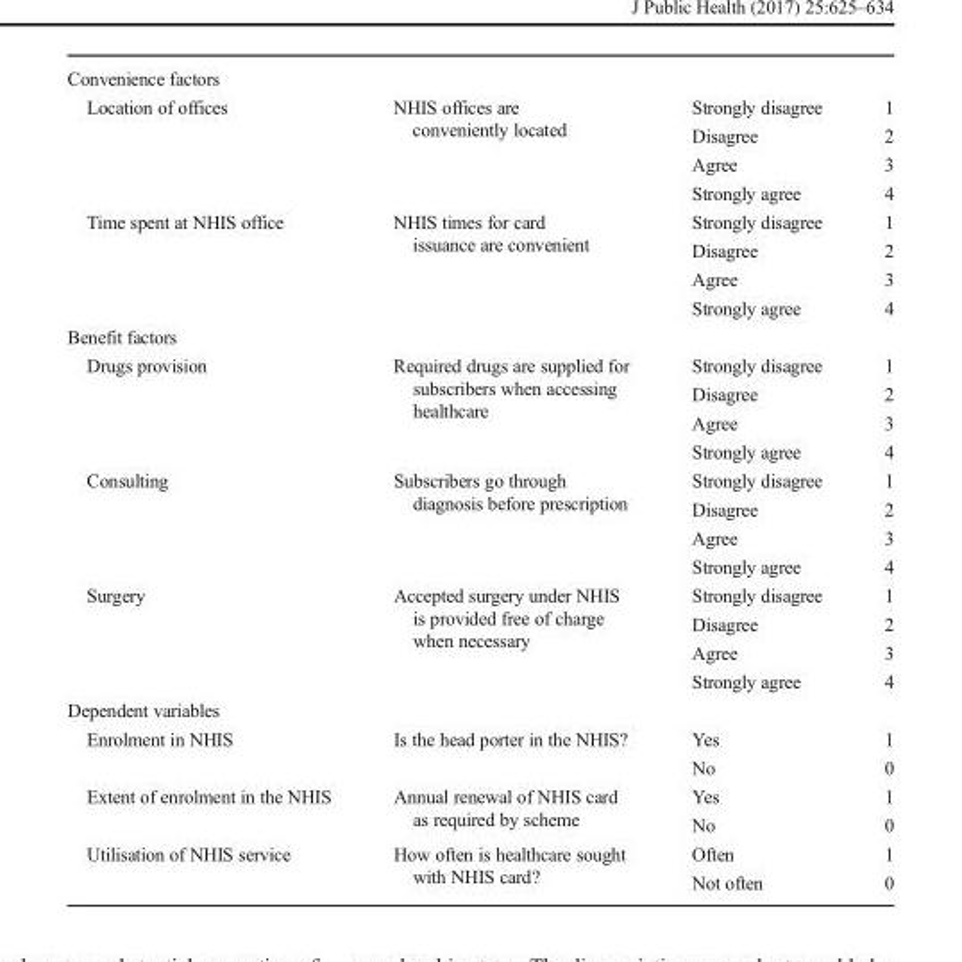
<table><tbody><tr><td colspan="4">Convenience factors</td></tr><tr><td rowspan="4">Location of offices</td><td rowspan="4">NHIS offices are conveniently located</td><td>Strongly disagree</td><td>1</td></tr><tr><td>Disagree</td><td>2</td></tr><tr><td>Agree</td><td>3</td></tr><tr><td>Strongly agree</td><td>4</td></tr><tr><td rowspan="4">Time spent at NHIS office</td><td rowspan="4">NHIS times for card issuance are convenient</td><td>Strongly disagree</td><td>1</td></tr><tr><td>Disagree</td><td>2</td></tr><tr><td>Agree</td><td>3</td></tr><tr><td>Strongly agree</td><td>4</td></tr><tr><td colspan="4">Benefit factors</td></tr><tr><td rowspan="4">Drugs provision</td><td rowspan="4">Required drugs are supplied for subscribers when accessing healthcare</td><td>Strongly disagree</td><td>1</td></tr><tr><td>Disagree</td><td>2</td></tr><tr><td>Agree</td><td>3</td></tr><tr><td>Strongly agree</td><td>4</td></tr><tr><td rowspan="4">Consulting</td><td rowspan="4">Subscribers go through diagnosis before prescription</td><td>Strongly disagree</td><td>1</td></tr><tr><td>Disagree</td><td>2</td></tr><tr><td>Agree</td><td>3</td></tr><tr><td>Strongly agree</td><td>4</td></tr><tr><td rowspan="4">Surgery</td><td rowspan="4">Accepted surgery under NHIS is provided free of charge when necessary</td><td>Strongly disagree</td><td>1</td></tr><tr><td>Disagree</td><td>2</td></tr><tr><td>Agree</td><td>3</td></tr><tr><td>Strongly agree</td><td>4</td></tr><tr><td colspan="4">Dependent variables</td></tr><tr><td rowspan="2">Enrolment in NHIS</td><td rowspan="2">Is the head porter in the NHIS?</td><td>Yes</td><td>1</td></tr><tr><td>No</td><td>0</td></tr><tr><td rowspan="2">Extent of enrolment in the NHIS</td><td rowspan="2">Annual renewal of NHIS card as required by scheme</td><td>Yes</td><td>1</td></tr><tr><td>No</td><td>0</td></tr><tr><td rowspan="2">Utilisation of NHIS service</td><td rowspan="2">How often is healthcare sought with NHIS card?</td><td>Often</td><td>1</td></tr><tr><td>Not often</td><td>0</td></tr></tbody></table>